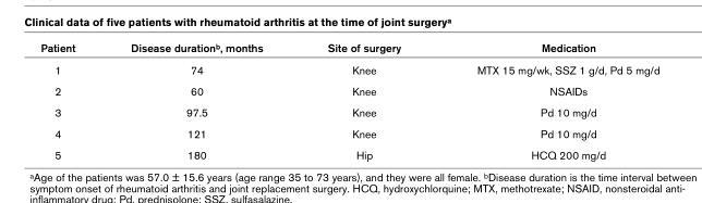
<table><thead><tr><td>Patient</td><td>Disease duration<sup>b</sup>, months</td><td>Site of surgery</td><td>Medication</td></tr></thead><tbody><tr><td>1</td><td>74</td><td>Knee</td><td>MTX 15 mg/wk, SSZ 1 g/d, Pd 5 mg/d</td></tr><tr><td>2</td><td>60</td><td>Knee</td><td>NSAIDs</td></tr><tr><td>3</td><td>97.5</td><td>Knee</td><td>Pd 10 mg/d</td></tr><tr><td>4</td><td>121</td><td>Knee</td><td>Pd 10 mg/d</td></tr><tr><td>5</td><td>180</td><td>Hip</td><td>HCQ 200 mg/d</td></tr></tbody></table>